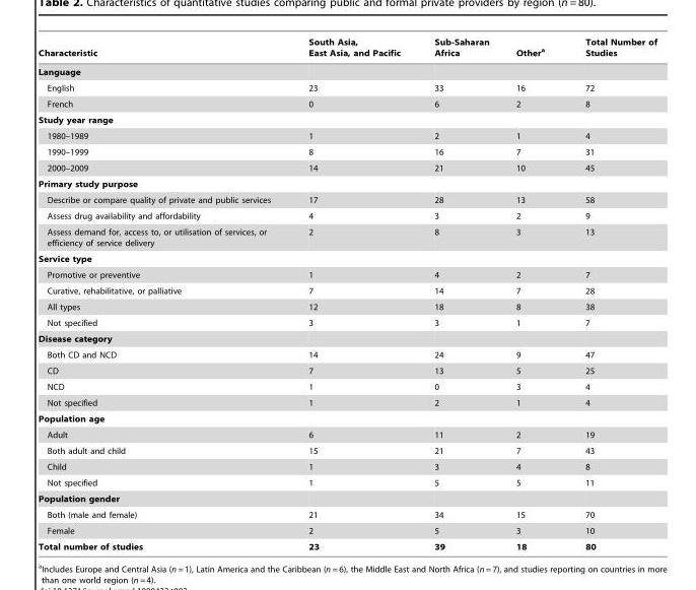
<table><thead><tr><td>Characteristic</td><td>South Asia, East Asia, and Pacific</td><td>Sub-Saharan Africa</td><td>Other<sup>a</sup></td><td>Total Number of Studies</td></tr></thead><tbody><tr><td colspan="5">Language</td></tr><tr><td>English</td><td>23</td><td>33</td><td>16</td><td>72</td></tr><tr><td>French</td><td>0</td><td>6</td><td>2</td><td>8</td></tr><tr><td colspan="5">Study year range</td></tr><tr><td>1980–1989</td><td>1</td><td>2</td><td>1</td><td>4</td></tr><tr><td>1990–1999</td><td>8</td><td>16</td><td>7</td><td>31</td></tr><tr><td>2000–2009</td><td>14</td><td>21</td><td>10</td><td>45</td></tr><tr><td colspan="5">Primary study purpose</td></tr><tr><td>Describe or compare quality of private and public services</td><td>17</td><td>28</td><td>13</td><td>58</td></tr><tr><td>Assess drug availability and affordability</td><td>4</td><td>3</td><td>2</td><td>9</td></tr><tr><td>Assess demand for, access to, or utilisation of services, or efficiency of service delivery</td><td>2</td><td>8</td><td>3</td><td>13</td></tr><tr><td colspan="5">Service type</td></tr><tr><td>Promotive or preventive</td><td>1</td><td>4</td><td>2</td><td>7</td></tr><tr><td>Curative, rehabilitative, or palliative</td><td>7</td><td>14</td><td>7</td><td>28</td></tr><tr><td>All types</td><td>12</td><td>18</td><td>8</td><td>38</td></tr><tr><td>Not specified</td><td>3</td><td>3</td><td>1</td><td>7</td></tr><tr><td colspan="5">Disease category</td></tr><tr><td>Both CD and NCD</td><td>14</td><td>24</td><td>9</td><td>47</td></tr><tr><td>CD</td><td>7</td><td>13</td><td>5</td><td>25</td></tr><tr><td>NCD</td><td>1</td><td>0</td><td>3</td><td>4</td></tr><tr><td>Not specified</td><td>1</td><td>2</td><td>1</td><td>4</td></tr><tr><td colspan="5">Population age</td></tr><tr><td>Adult</td><td>6</td><td>11</td><td>2</td><td>19</td></tr><tr><td>Both adult and child</td><td>15</td><td>21</td><td>7</td><td>43</td></tr><tr><td>Child</td><td>1</td><td>3</td><td>4</td><td>8</td></tr><tr><td>Not specified</td><td>1</td><td>5</td><td>5</td><td>11</td></tr><tr><td colspan="5">Population gender</td></tr><tr><td>Both (male and female)</td><td>21</td><td>34</td><td>15</td><td>70</td></tr><tr><td>Female</td><td>2</td><td>5</td><td>3</td><td>10</td></tr><tr><td>Total number of studies</td><td>23</td><td>39</td><td>18</td><td>80</td></tr></tbody></table>